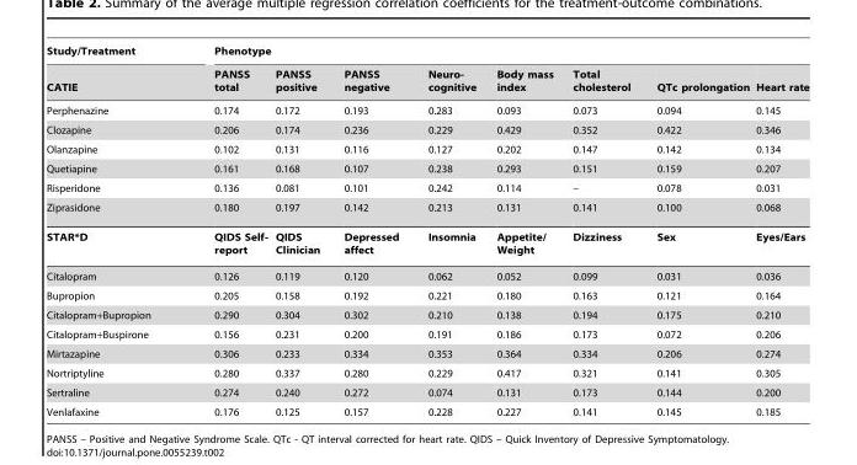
<table><thead><tr><td rowspan="2">Study/Treatment CATIE</td><td colspan="8">Phenotype</td></tr><tr><td>PANSS total</td><td>PANSS positive</td><td>PANSS negative</td><td>Neuro- cognitive</td><td>Body mass index</td><td>Total cholesterol</td><td>QTc prolongation</td><td>Heart rate</td></tr></thead><tbody><tr><td>Perphenazine</td><td>0.174</td><td>0.172</td><td>0.193</td><td>0.283</td><td>0.093</td><td>0.073</td><td>0.094</td><td>0.145</td></tr><tr><td>Clozapine</td><td>0.206</td><td>0.174</td><td>0.236</td><td>0.229</td><td>0.429</td><td>0.352</td><td>0.422</td><td>0.346</td></tr><tr><td>Olanzapine</td><td>0.102</td><td>0.131</td><td>0.116</td><td>0.127</td><td>0.202</td><td>0.147</td><td>0.142</td><td>0.134</td></tr><tr><td>Quetiapine</td><td>0.161</td><td>0.168</td><td>0.107</td><td>0.238</td><td>0.293</td><td>0.151</td><td>0.159</td><td>0.207</td></tr><tr><td>Risperidone</td><td>0.136</td><td>0.081</td><td>0.101</td><td>0.242</td><td>0.114</td><td>–</td><td>0.078</td><td>0.031</td></tr><tr><td>Ziprasidone</td><td>0.180</td><td>0.197</td><td>0.142</td><td>0.213</td><td>0.131</td><td>0.141</td><td>0.100</td><td>0.068</td></tr><tr><td>STAR*D</td><td>QIDS Self- report</td><td>QIDS Clinician</td><td>Depressed affect</td><td>Insomnia</td><td>Appetite/ Weight</td><td>Dizziness</td><td>Sex</td><td>Eyes/Ears</td></tr><tr><td>Citalopram</td><td>0.126</td><td>0.119</td><td>0.120</td><td>0.062</td><td>0.052</td><td>0.099</td><td>0.031</td><td>0.036</td></tr><tr><td>Bupropion</td><td>0.205</td><td>0.158</td><td>0.192</td><td>0.221</td><td>0.180</td><td>0.163</td><td>0.121</td><td>0.164</td></tr><tr><td>Citalopram+Bupropion</td><td>0.290</td><td>0.304</td><td>0.302</td><td>0.210</td><td>0.138</td><td>0.194</td><td>0.175</td><td>0.210</td></tr><tr><td>Citalopram+Buspirone</td><td>0.156</td><td>0.231</td><td>0.200</td><td>0.191</td><td>0.186</td><td>0.173</td><td>0.072</td><td>0.206</td></tr><tr><td>Mirtazapine</td><td>0.306</td><td>0.233</td><td>0.334</td><td>0.353</td><td>0.364</td><td>0.334</td><td>0.206</td><td>0.274</td></tr><tr><td>Nortriptyline</td><td>0.280</td><td>0.337</td><td>0.280</td><td>0.229</td><td>0.417</td><td>0.321</td><td>0.141</td><td>0.305</td></tr><tr><td>Sertraline</td><td>0.274</td><td>0.240</td><td>0.272</td><td>0.074</td><td>0.131</td><td>0.173</td><td>0.144</td><td>0.200</td></tr><tr><td>Venlafaxine</td><td>0.176</td><td>0.125</td><td>0.157</td><td>0.228</td><td>0.227</td><td>0.141</td><td>0.145</td><td>0.185</td></tr></tbody></table>